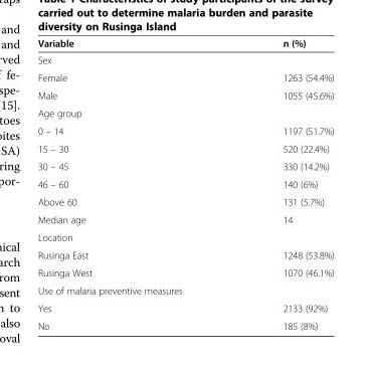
<table><thead><tr><td>Variable</td><td>n (%)</td></tr></thead><tbody><tr><td colspan="2">Sex</td></tr><tr><td>Female</td><td>1263 (54.4%)</td></tr><tr><td>Male</td><td>1055 (45.6%)</td></tr><tr><td colspan="2">Age group</td></tr><tr><td>0 – 14</td><td>1197 (51.7%)</td></tr><tr><td>15 – 30</td><td>520 (22.4%)</td></tr><tr><td>30 – 45</td><td>330 (14.2%)</td></tr><tr><td>46 – 60</td><td>140 (6%)</td></tr><tr><td>Above 60</td><td>131 (5.7%)</td></tr><tr><td>Median age</td><td>14</td></tr><tr><td colspan="2">Location</td></tr><tr><td>Rusinga East</td><td>1248 (53.8%)</td></tr><tr><td>Rusinga West</td><td>1070 (46.1%)</td></tr><tr><td colspan="2">Use of malaria preventive measures</td></tr><tr><td>Yes</td><td>2133 (92%)</td></tr><tr><td>No</td><td>185 (8%)</td></tr></tbody></table>